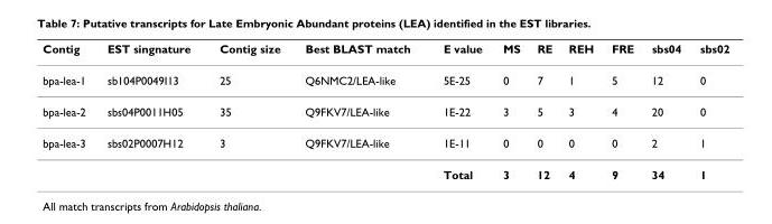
<table><thead><tr><td>Contig</td><td>EST singnature</td><td>Contig size</td><td>Best BLAST match</td><td>E value</td><td>MS</td><td>RE</td><td>REH</td><td>FRE</td><td>sbs04</td><td>sbs02</td></tr></thead><tbody><tr><td>bpa-lea-1</td><td>sb104P0049I13</td><td>25</td><td>Q6NMC2/LEA-like</td><td>5E-25</td><td>0</td><td>7</td><td>1</td><td>5</td><td>12</td><td>0</td></tr><tr><td>bpa-lea-2</td><td>sbs04P0011H05</td><td>35</td><td>Q9FKV7/LEA-like</td><td>1E-22</td><td>3</td><td>5</td><td>3</td><td>4</td><td>20</td><td>0</td></tr><tr><td rowspan="2">bpa-lea-3</td><td>sbs02P0007H12</td><td>3</td><td>Q9FKV7/LEA-like</td><td>1E-11</td><td>0</td><td>0</td><td>0</td><td>0</td><td>2</td><td>1</td></tr><tr><td></td><td></td><td></td><td>Total</td><td>3</td><td>12</td><td>4</td><td>9</td><td>34</td><td>1</td></tr></tbody></table>